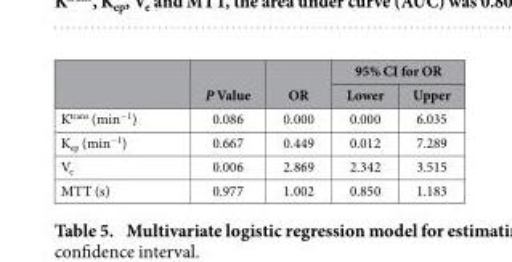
<table><thead><tr><td rowspan="2"></td><td rowspan="2">P Value</td><td rowspan="2">OR</td><td colspan="2">95% CI for OR</td></tr><tr><td>Lower</td><td>Upper</td></tr></thead><tbody><tr><td>K<sup>trans</sup> (min<sup>−1</sup>)</td><td>0.086</td><td>0.000</td><td>0.000</td><td>6.035</td></tr><tr><td>K<sub>ep</sub> (min<sup>−1</sup>)</td><td>0.667</td><td>0.449</td><td>0.012</td><td>7.289</td></tr><tr><td>V<sub>e</sub></td><td>0.006</td><td>2.869</td><td>2.342</td><td>3.515</td></tr><tr><td>MTT (s)</td><td>0.977</td><td>1.002</td><td>0.850</td><td>1.183</td></tr></tbody></table>